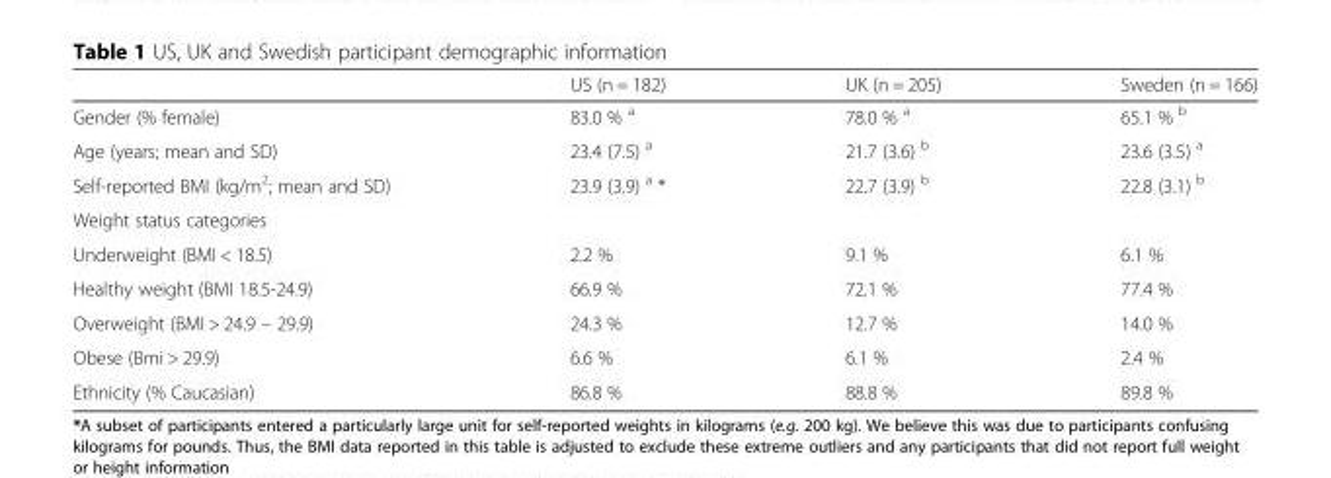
<table><thead><tr><td></td><td>US (n = 182)</td><td>UK (n = 205)</td><td>Sweden (n = 166)</td></tr></thead><tbody><tr><td>Gender (% female)</td><td>83.0 % <sup>a</sup></td><td>78.0 % <sup>a</sup></td><td>65.1 % <sup>b</sup></td></tr><tr><td>Age (years; mean and SD)</td><td>23.4 (7.5) <sup>a</sup></td><td>21.7 (3.6) <sup>b</sup></td><td>23.6 (3.5) <sup>a</sup></td></tr><tr><td>Self-reported BMI (kg/m<sup>2</sup>; mean and SD)</td><td>23.9 (3.9) <sup>a</sup> *</td><td>22.7 (3.9) <sup>b</sup></td><td>22.8 (3.1) <sup>b</sup></td></tr><tr><td colspan="4">Weight status categories</td></tr><tr><td>Underweight (BMI &lt; 18.5)</td><td>2.2 %</td><td>9.1 %</td><td>6.1 %</td></tr><tr><td>Healthy weight (BMI 18.5-24.9)</td><td>66.9 %</td><td>72.1 %</td><td>77.4 %</td></tr><tr><td>Overweight (BMI &gt; 24.9 – 29.9)</td><td>24.3 %</td><td>12.7 %</td><td>14.0 %</td></tr><tr><td>Obese (Bmi &gt; 29.9)</td><td>6.6 %</td><td>6.1 %</td><td>2.4 %</td></tr><tr><td>Ethnicity (% Caucasian)</td><td>86.8 %</td><td>88.8 %</td><td>89.8 %</td></tr></tbody></table>